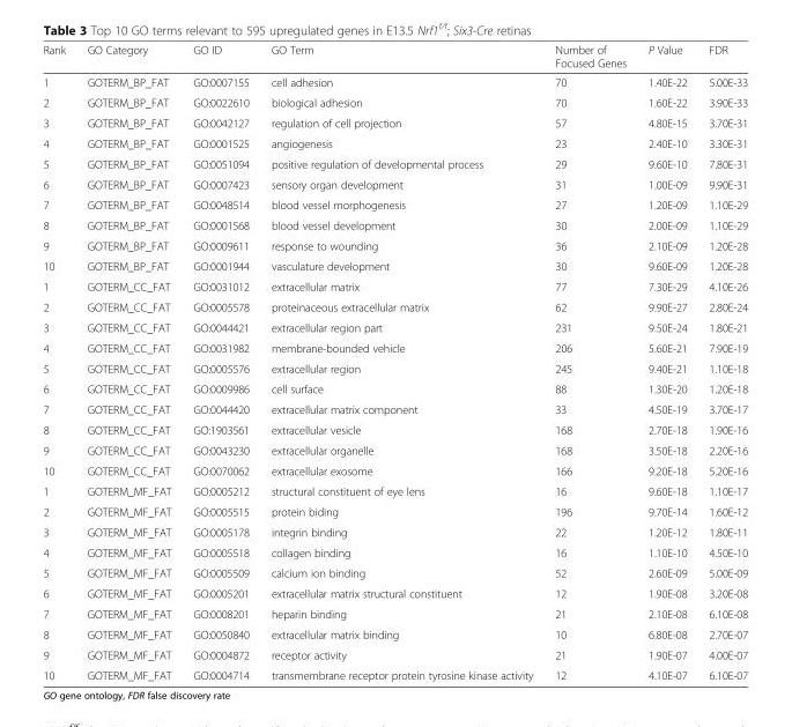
<table><thead><tr><td>Rank</td><td>GO Category</td><td>GO ID</td><td>GO Term</td><td>Number of Focused Genes</td><td>P Value</td><td>FDR</td></tr></thead><tbody><tr><td>1</td><td>GOTERM_BP_FAT</td><td>GO:0007155</td><td>cell adhesion</td><td>70</td><td>1.40E-22</td><td>5.00E-33</td></tr><tr><td>2</td><td>GOTERM_BP_FAT</td><td>GO:0022610</td><td>biological adhesion</td><td>70</td><td>1.60E-22</td><td>3.90E-33</td></tr><tr><td>3</td><td>GOTERM_BP_FAT</td><td>GO:0042127</td><td>regulation of cell projection</td><td>57</td><td>4.80E-15</td><td>3.70E-31</td></tr><tr><td>4</td><td>GOTERM_BP_FAT</td><td>GO:0001525</td><td>angiogenesis</td><td>23</td><td>2.40E-10</td><td>3.30E-31</td></tr><tr><td>5</td><td>GOTERM_BP_FAT</td><td>GO:0051094</td><td>positive regulation of developmental process</td><td>29</td><td>9.60E-10</td><td>7.80E-31</td></tr><tr><td>6</td><td>GOTERM_BP_FAT</td><td>GO:0007423</td><td>sensory organ development</td><td>31</td><td>1.00E-09</td><td>9.90E-31</td></tr><tr><td>7</td><td>GOTERM_BP_FAT</td><td>GO:0048514</td><td>blood vessel morphogenesis</td><td>27</td><td>1.20E-09</td><td>1.10E-29</td></tr><tr><td>8</td><td>GOTERM_BP_FAT</td><td>GO:0001568</td><td>blood vessel development</td><td>30</td><td>2.00E-09</td><td>1.10E-29</td></tr><tr><td>9</td><td>GOTERM_BP_FAT</td><td>GO:0009611</td><td>response to wounding</td><td>36</td><td>2.10E-09</td><td>1.20E-28</td></tr><tr><td>10</td><td>GOTERM_BP_FAT</td><td>GO:0001944</td><td>vasculature development</td><td>30</td><td>9.60E-09</td><td>1.20E-28</td></tr><tr><td>1</td><td>GOTERM_CC_FAT</td><td>GO:0031012</td><td>extracellular matrix</td><td>77</td><td>7.30E-29</td><td>4.10E-26</td></tr><tr><td>2</td><td>GOTERM_CC_FAT</td><td>GO:0005578</td><td>proteinaceous extracellular matrix</td><td>62</td><td>9.90E-27</td><td>2.80E-24</td></tr><tr><td>3</td><td>GOTERM_CC_FAT</td><td>GO:0044421</td><td>extracellular region part</td><td>231</td><td>9.50E-24</td><td>1.80E-21</td></tr><tr><td>4</td><td>GOTERM_CC_FAT</td><td>GO:0031982</td><td>membrane-bounded vehicle</td><td>206</td><td>5.60E-21</td><td>7.90E-19</td></tr><tr><td>5</td><td>GOTERM_CC_FAT</td><td>GO:0005576</td><td>extracellular region</td><td>245</td><td>9.40E-21</td><td>1.10E-18</td></tr><tr><td>6</td><td>GOTERM_CC_FAT</td><td>GO:0009986</td><td>cell surface</td><td>88</td><td>1.30E-20</td><td>1.20E-18</td></tr><tr><td>7</td><td>GOTERM_CC_FAT</td><td>GO:0044420</td><td>extracellular matrix component</td><td>33</td><td>4.50E-19</td><td>3.70E-17</td></tr><tr><td>8</td><td>GOTERM_CC_FAT</td><td>GO:1903561</td><td>extracellular vesicle</td><td>168</td><td>2.70E-18</td><td>1.90E-16</td></tr><tr><td>9</td><td>GOTERM_CC_FAT</td><td>GO:0043230</td><td>extracellular organelle</td><td>168</td><td>3.50E-18</td><td>2.20E-16</td></tr><tr><td>10</td><td>GOTERM_CC_FAT</td><td>GO:0070062</td><td>extracellular exosome</td><td>166</td><td>9.20E-18</td><td>5.20E-16</td></tr><tr><td>1</td><td>GOTERM_MF_FAT</td><td>GO:0005212</td><td>structural constituent of eye lens</td><td>16</td><td>9.60E-18</td><td>1.10E-17</td></tr><tr><td>2</td><td>GOTERM_MF_FAT</td><td>GO:0005515</td><td>protein biding</td><td>196</td><td>9.70E-14</td><td>1.60E-12</td></tr><tr><td>3</td><td>GOTERM_MF_FAT</td><td>GO:0005178</td><td>integrin binding</td><td>22</td><td>1.20E-12</td><td>1.80E-11</td></tr><tr><td>4</td><td>GOTERM_MF_FAT</td><td>GO:0005518</td><td>collagen binding</td><td>16</td><td>1.10E-10</td><td>4.50E-10</td></tr><tr><td>5</td><td>GOTERM_MF_FAT</td><td>GO:0005509</td><td>calcium ion binding</td><td>52</td><td>2.60E-09</td><td>5.00E-09</td></tr><tr><td>6</td><td>GOTERM_MF_FAT</td><td>GO:0005201</td><td>extracellular matrix structural constituent</td><td>12</td><td>1.90E-08</td><td>3.20E-08</td></tr><tr><td>7</td><td>GOTERM_MF_FAT</td><td>GO:0008201</td><td>heparin binding</td><td>21</td><td>2.10E-08</td><td>6.10E-08</td></tr><tr><td>8</td><td>GOTERM_MF_FAT</td><td>GO:0050840</td><td>extracellular matrix binding</td><td>10</td><td>6.80E-08</td><td>2.70E-07</td></tr><tr><td>9</td><td>GOTERM_MF_FAT</td><td>GO:0004872</td><td>receptor activity</td><td>21</td><td>1.90E-07</td><td>4.00E-07</td></tr><tr><td>10</td><td>GOTERM_MF_FAT</td><td>GO:0004714</td><td>transmembrane receptor protein tyrosine kinase activity</td><td>12</td><td>4.10E-07</td><td>6.10E-07</td></tr></tbody></table>